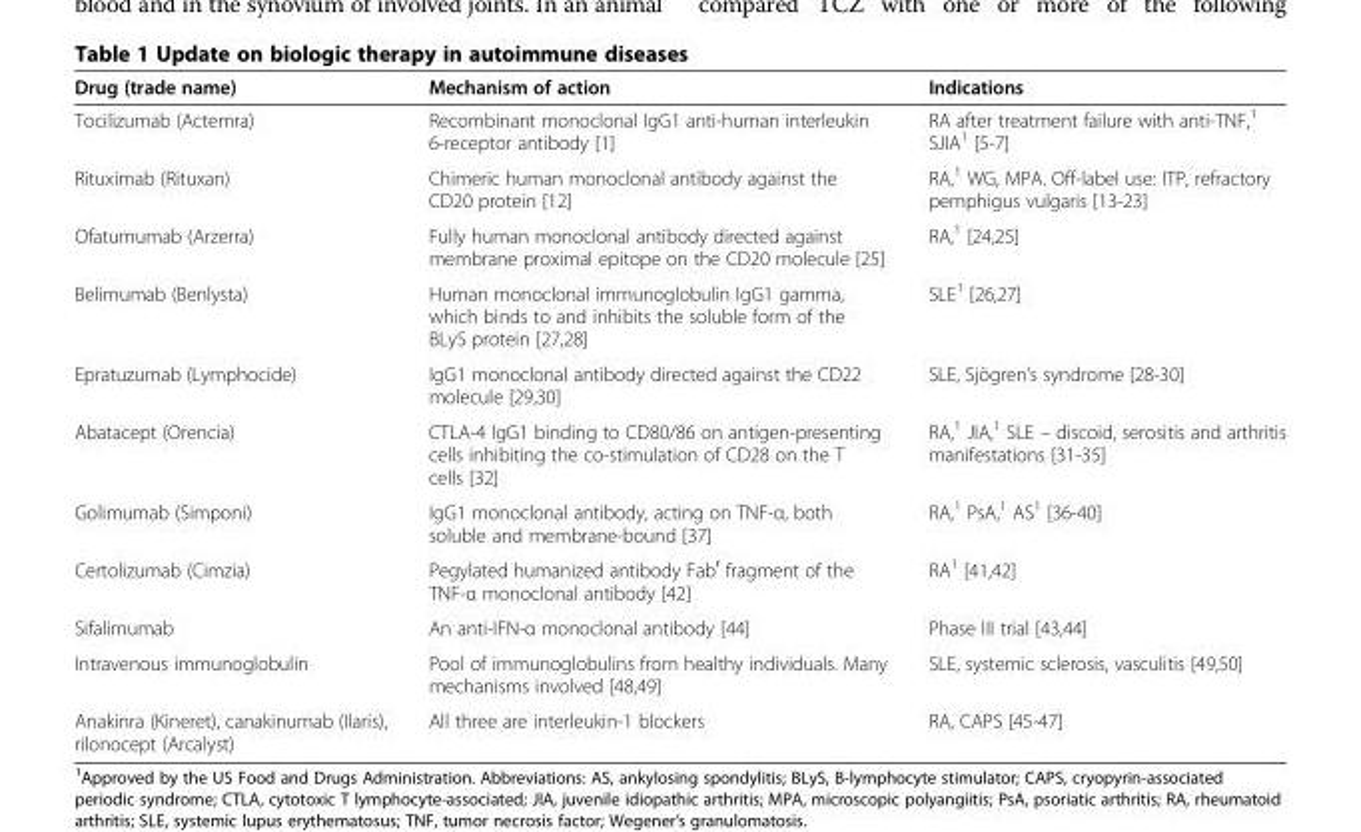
<table><thead><tr><td>Drug (trade name)</td><td>Mechanism of action</td><td>Indications</td></tr></thead><tbody><tr><td>Tocilizumab (Actemra)</td><td>Recombinant monoclonal IgG1 anti-human interleukin 6-receptor antibody [1]</td><td>RA after treatment failure with anti-TNF,<sup>1</sup> SJIA<sup>1</sup> [5-7]</td></tr><tr><td>Rituximab (Rituxan)</td><td>Chimeric human monoclonal antibody against the CD20 protein [12]</td><td>RA,<sup>1</sup> WG, MPA. Off-label use: ITP, refractory pemphigus vulgaris [13-23]</td></tr><tr><td>Ofatumumab (Arzerra)</td><td>Fully human monoclonal antibody directed against membrane proximal epitope on the CD20 molecule [25]</td><td>RA,<sup>1</sup> [24,25]</td></tr><tr><td>Belimumab (Benlysta)</td><td>Human monoclonal immunoglobulin IgG1 gamma, which binds to and inhibits the soluble form of the BLyS protein [27,28]</td><td>SLE<sup>1</sup> [26,27]</td></tr><tr><td>Epratuzumab (Lymphocide)</td><td>IgG1 monoclonal antibody directed against the CD22 molecule [29,30]</td><td>SLE, Sjögren’s syndrome [28-30]</td></tr><tr><td>Abatacept (Orencia)</td><td>CTLA-4 IgG1 binding to CD80/86 on antigen-presenting cells inhibiting the co-stimulation of CD28 on the T cells [32]</td><td>RA,<sup>1</sup> JIA,<sup>1</sup> SLE – discoid, serositis and arthritis manifestations [31-35]</td></tr><tr><td>Golimumab (Simponi)</td><td>IgG1 monoclonal antibody, acting on TNF-α, both soluble and membrane-bound [37]</td><td>RA,<sup>1</sup> PsA,<sup>1</sup> AS<sup>1</sup> [36-40]</td></tr><tr><td>Certolizumab (Cimzia)</td><td>Pegylated humanized antibody Fab<sup>′</sup> fragment of the TNF-α monoclonal antibody [42]</td><td>RA<sup>1</sup> [41,42]</td></tr><tr><td>Sifalimumab</td><td>An anti-IFN-α monoclonal antibody [44]</td><td>Phase III trial [43,44]</td></tr><tr><td>Intravenous immunoglobulin</td><td>Pool of immunoglobulins from healthy individuals. Many mechanisms involved [48,49]</td><td>SLE, systemic sclerosis, vasculitis [49,50]</td></tr><tr><td>Anakinra (Kineret), canakinumab (Ilaris), rilonocept (Arcalyst)</td><td>All three are interleukin-1 blockers</td><td>RA, CAPS [45-47]</td></tr></tbody></table>